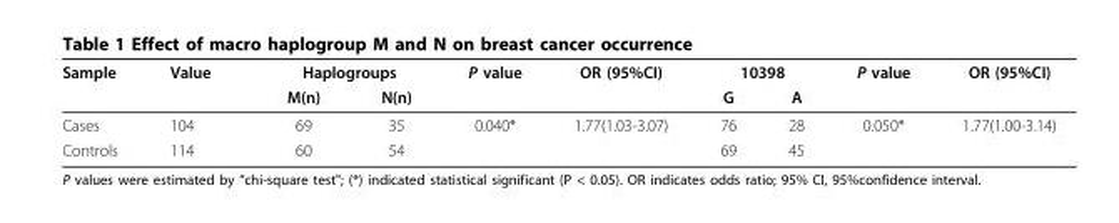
<table><thead><tr><td rowspan="2">Sample</td><td rowspan="2">Value</td><td colspan="2">Haplogroups</td><td rowspan="2">P value</td><td rowspan="2">OR (95%CI)</td><td colspan="2">10398</td><td rowspan="2">P value</td><td rowspan="2">OR (95%CI)</td></tr><tr><td>M(n)</td><td>N(n)</td><td>G</td><td>A</td></tr></thead><tbody><tr><td>Cases</td><td>104</td><td>69</td><td>35</td><td>0.040*</td><td>1.77(1.03-3.07)</td><td>76</td><td>28</td><td>0.050*</td><td>1.77(1.00-3.14)</td></tr><tr><td>Controls</td><td>114</td><td>60</td><td>54</td><td></td><td></td><td>69</td><td>45</td><td></td><td></td></tr></tbody></table>